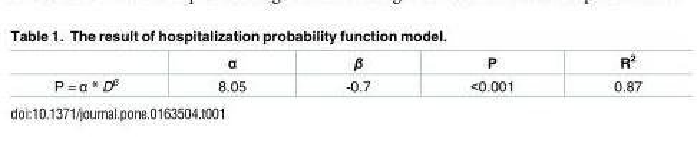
<table><thead><tr><td></td><td>α</td><td>β</td><td>P</td><td>R<sup>2</sup></td></tr></thead><tbody><tr><td>P = α * D<sup>β</sup></td><td>8.05</td><td>-0.7</td><td>&lt;0.001</td><td>0.87</td></tr></tbody></table>